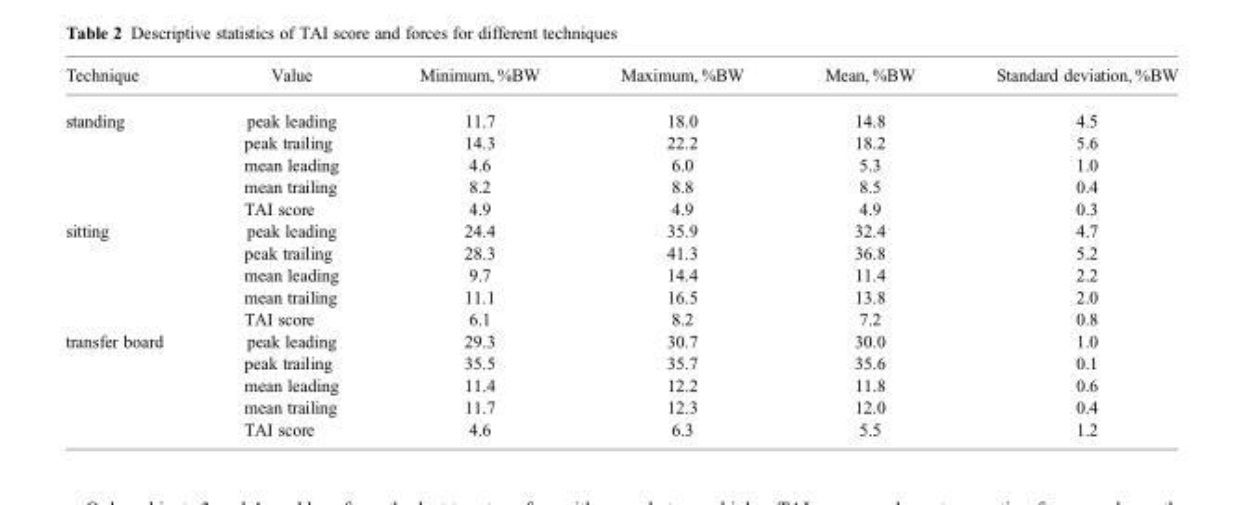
<table><thead><tr><td>Technique</td><td>Value</td><td>Minimum, %BW</td><td>Maximum, %BW</td><td>Mean, %BW</td><td>Standard deviation, %BW</td></tr></thead><tbody><tr><td rowspan="5">standing</td><td>peak leading</td><td>11.7</td><td>18.0</td><td>14.8</td><td>4.5</td></tr><tr><td>peak trailing</td><td>14.3</td><td>22.2</td><td>18.2</td><td>5.6</td></tr><tr><td>mean leading</td><td>4.6</td><td>6.0</td><td>5.3</td><td>1.0</td></tr><tr><td>mean trailing</td><td>8.2</td><td>8.8</td><td>8.5</td><td>0.4</td></tr><tr><td>TAI score</td><td>4.9</td><td>4.9</td><td>4.9</td><td>0.3</td></tr><tr><td rowspan="5">sitting</td><td>peak leading</td><td>24.4</td><td>35.9</td><td>32.4</td><td>4.7</td></tr><tr><td>peak trailing</td><td>28.3</td><td>41.3</td><td>36.8</td><td>5.2</td></tr><tr><td>mean leading</td><td>9.7</td><td>14.4</td><td>11.4</td><td>2.2</td></tr><tr><td>mean trailing</td><td>11.1</td><td>16.5</td><td>13.8</td><td>2.0</td></tr><tr><td>TAI score</td><td>6.1</td><td>8.2</td><td>7.2</td><td>0.8</td></tr><tr><td rowspan="5">transfer board</td><td>peak leading</td><td>29.3</td><td>30.7</td><td>30.0</td><td>1.0</td></tr><tr><td>peak trailing</td><td>35.5</td><td>35.7</td><td>35.6</td><td>0.1</td></tr><tr><td>mean leading</td><td>11.4</td><td>12.2</td><td>11.8</td><td>0.6</td></tr><tr><td>mean trailing</td><td>11.7</td><td>12.3</td><td>12.0</td><td>0.4</td></tr><tr><td>TAI score</td><td>4.6</td><td>6.3</td><td>5.5</td><td>1.2</td></tr></tbody></table>